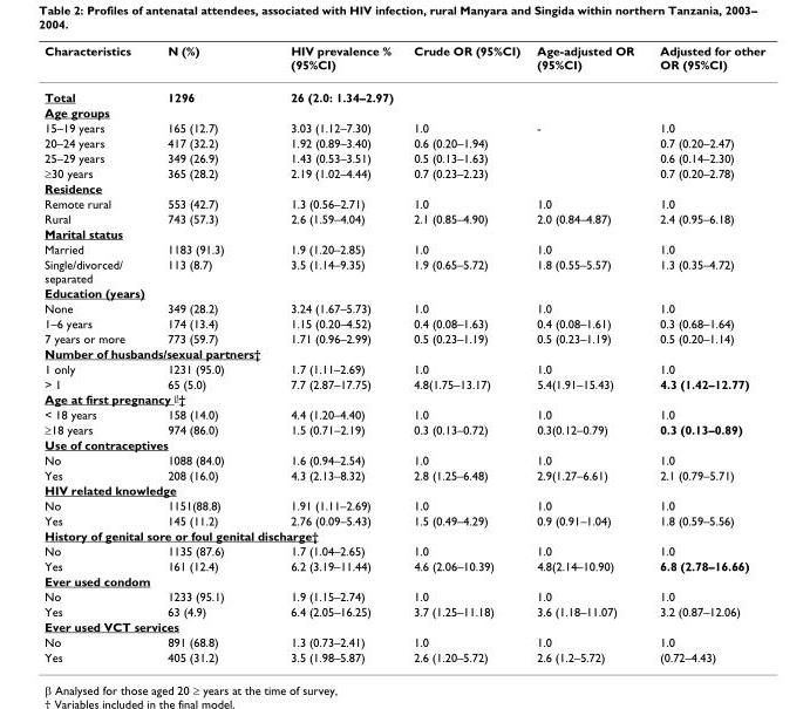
<table><thead><tr><td>Characteristics</td><td>N (%)</td><td>HIV prevalence % (95%CI)</td><td>Crude OR (95%CI)</td><td>Age-adjusted OR (95%CI)</td><td>Adjusted for other OR (95%CI)</td></tr></thead><tbody><tr><td>Total</td><td>1296</td><td>26 (2.0: 1.34–2.97)</td><td></td><td></td><td></td></tr><tr><td colspan="6">Age groups</td></tr><tr><td>15–19 years</td><td>165 (12.7)</td><td>3.03 (1.12–7.30)</td><td>1.0</td><td>-</td><td>1.0</td></tr><tr><td>20–24 years</td><td>417 (32.2)</td><td>1.92 (0.89–3.40)</td><td>0.6 (0.20–1.94)</td><td></td><td>0.7 (0.20–2.47)</td></tr><tr><td>25–29 years</td><td>349 (26.9)</td><td>1.43 (0.53–3.51)</td><td>0.5 (0.13–1.63)</td><td></td><td>0.6 (0.14–2.30)</td></tr><tr><td>≥30 years</td><td>365 (28.2)</td><td>2.19 (1.02–4.44)</td><td>0.7 (0.23–2.23)</td><td></td><td>0.7 (0.20–2.78)</td></tr><tr><td colspan="6">Residence</td></tr><tr><td>Remote rural</td><td>553 (42.7)</td><td>1.3 (0.56–2.71)</td><td>1.0</td><td>1.0</td><td>1.0</td></tr><tr><td>Rural</td><td>743 (57.3)</td><td>2.6 (1.59–4.04)</td><td>2.1 (0.85–4.90)</td><td>2.0 (0.84–4.87)</td><td>2.4 (0.95–6.18)</td></tr><tr><td colspan="6">Marital status</td></tr><tr><td>Married</td><td>1183 (91.3)</td><td>1.9 (1.20–2.85)</td><td>1.0</td><td>1.0</td><td>1.0</td></tr><tr><td>Single/divorced/ separated</td><td>113 (8.7)</td><td>3.5 (1.14–9.35)</td><td>1.9 (0.65–5.72)</td><td>1.8 (0.55–5.57)</td><td>1.3 (0.35–4.72)</td></tr><tr><td colspan="6">Education (years)</td></tr><tr><td>None</td><td>349 (28.2)</td><td>3.24 (1.67–5.73)</td><td>1.0</td><td>1.0</td><td>1.0</td></tr><tr><td>1–6 years</td><td>174 (13.4)</td><td>1.15 (0.20–4.52)</td><td>0.4 (0.08–1.63)</td><td>0.4 (0.08–1.61)</td><td>0.3 (0.68–1.64)</td></tr><tr><td>7 years or more</td><td>773 (59.7)</td><td>1.71 (0.96–2.99)</td><td>0.5 (0.23–1.19)</td><td>0.5 (0.23–1.19)</td><td>0.5 (0.20–1.14)</td></tr><tr><td colspan="6">Number of husbands/sexual partners†</td></tr><tr><td>1 only</td><td>1231 (95.0)</td><td>1.7 (1.11–2.69)</td><td>1.0</td><td>1.0</td><td>1.0</td></tr><tr><td>&gt; 1</td><td>65 (5.0)</td><td>7.7 (2.87–17.75)</td><td>4.8(1.75–13.17)</td><td>5.4(1.91–15.43)</td><td>4.3 (1.42–12.77)</td></tr><tr><td colspan="6">Age at first pregnancy β†</td></tr><tr><td>&lt; 18 years</td><td>158 (14.0)</td><td>4.4 (1.20–4.40)</td><td>1.0</td><td>1.0</td><td>1.0</td></tr><tr><td>≥18 years</td><td>974 (86.0)</td><td>1.5 (0.71–2.19)</td><td>0.3 (0.13–0.72)</td><td>0.3(0.12–0.79)</td><td>0.3 (0.13–0.89)</td></tr><tr><td colspan="6">Use of contraceptives</td></tr><tr><td>No</td><td>1088 (84.0)</td><td>1.6 (0.94–2.54)</td><td>1.0</td><td>1.0</td><td>1.0</td></tr><tr><td>Yes</td><td>208 (16.0)</td><td>4.3 (2.13–8.32)</td><td>2.8 (1.25–6.48)</td><td>2.9(1.27–6.61)</td><td>2.1 (0.79–5.71)</td></tr><tr><td colspan="6">HIV related knowledge</td></tr><tr><td>No</td><td>1151(88.8)</td><td>1.91 (1.11–2.69)</td><td>1.0</td><td>1.0</td><td>1.0</td></tr><tr><td>Yes</td><td>145 (11.2)</td><td>2.76 (0.09–5.43)</td><td>1.5 (0.49–4.29)</td><td>0.9 (0.91–1.04)</td><td>1.8 (0.59–5.56)</td></tr><tr><td colspan="6">History of genital sore or foul genital discharge†</td></tr><tr><td>No</td><td>1135 (87.6)</td><td>1.7 (1.04–2.65)</td><td>1.0</td><td>1.0</td><td>1.0</td></tr><tr><td>Yes</td><td>161 (12.4)</td><td>6.2 (3.19–11.44)</td><td>4.6 (2.06–10.39)</td><td>4.8(2.14–10.90)</td><td>6.8 (2.78–16.66)</td></tr><tr><td colspan="6">Ever used condom</td></tr><tr><td>No</td><td>1233 (95.1)</td><td>1.9 (1.15–2.74)</td><td>1.0</td><td>1.0</td><td>1.0</td></tr><tr><td>Yes</td><td>63 (4.9)</td><td>6.4 (2.05–16.25)</td><td>3.7 (1.25–11.18)</td><td>3.6 (1.18–11.07)</td><td>3.2 (0.87–12.06)</td></tr><tr><td colspan="6">Ever used VCT services</td></tr><tr><td>No</td><td>891 (68.8)</td><td>1.3 (0.73–2.41)</td><td>1.0</td><td>1.0</td><td>1.0</td></tr><tr><td>Yes</td><td>405 (31.2)</td><td>3.5 (1.98–5.87)</td><td>2.6 (1.20–5.72)</td><td>2.6 (1.2–5.72)</td><td>(0.72–4.43)</td></tr></tbody></table>